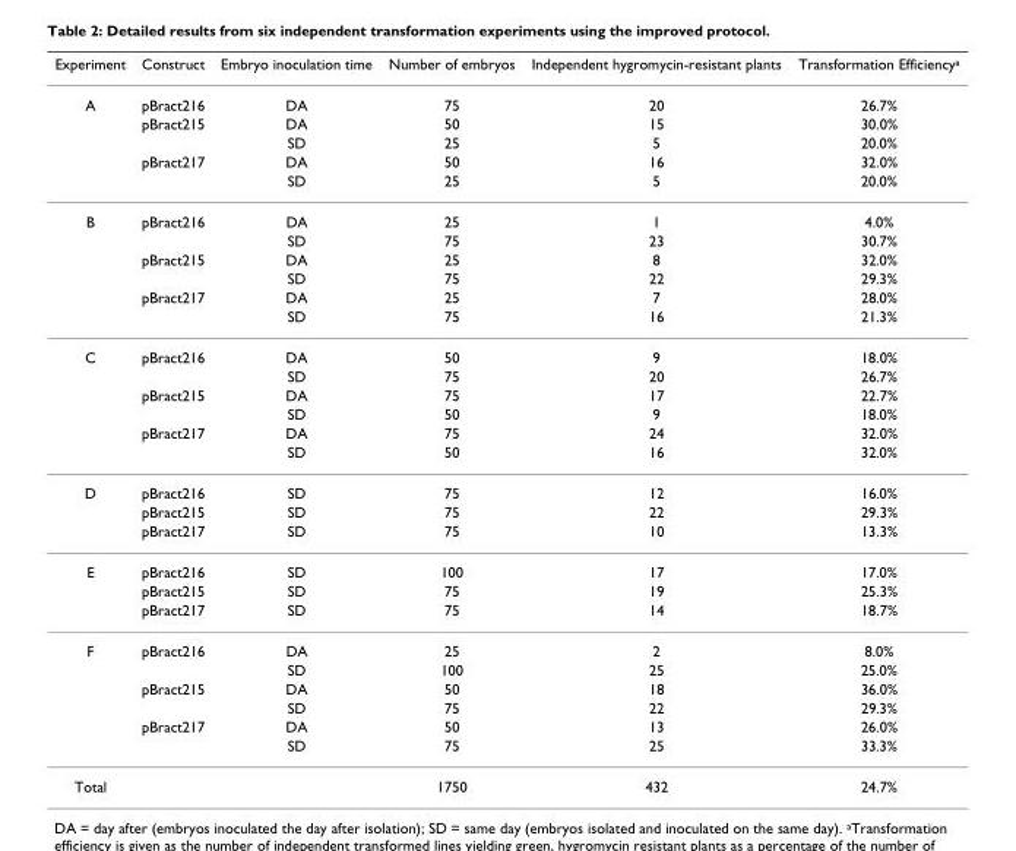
<table><thead><tr><td>Experiment</td><td>Construct</td><td>Embryo inoculation time</td><td>Number of embryos</td><td>Independent hygromycin-resistant plants</td><td>Transformation Efficiency<sup>a</sup></td></tr></thead><tbody><tr><td rowspan="5">A</td><td>pBract216</td><td>DA</td><td>75</td><td>20</td><td>26.7%</td></tr><tr><td>pBract215</td><td>DA</td><td>50</td><td>15</td><td>30.0%</td></tr><tr><td></td><td>SD</td><td>25</td><td>5</td><td>20.0%</td></tr><tr><td>pBract217</td><td>DA</td><td>50</td><td>16</td><td>32.0%</td></tr><tr><td></td><td>SD</td><td>25</td><td>5</td><td>20.0%</td></tr><tr><td rowspan="6">B</td><td>pBract216</td><td>DA</td><td>25</td><td>1</td><td>4.0%</td></tr><tr><td></td><td>SD</td><td>75</td><td>23</td><td>30.7%</td></tr><tr><td>pBract215</td><td>DA</td><td>25</td><td>8</td><td>32.0%</td></tr><tr><td></td><td>SD</td><td>75</td><td>22</td><td>29.3%</td></tr><tr><td>pBract217</td><td>DA</td><td>25</td><td>7</td><td>28.0%</td></tr><tr><td></td><td>SD</td><td>75</td><td>16</td><td>21.3%</td></tr><tr><td rowspan="6">C</td><td>pBract216</td><td>DA</td><td>50</td><td>9</td><td>18.0%</td></tr><tr><td></td><td>SD</td><td>75</td><td>20</td><td>26.7%</td></tr><tr><td>pBract215</td><td>DA</td><td>75</td><td>17</td><td>22.7%</td></tr><tr><td></td><td>SD</td><td>50</td><td>9</td><td>18.0%</td></tr><tr><td>pBract217</td><td>DA</td><td>75</td><td>24</td><td>32.0%</td></tr><tr><td></td><td>SD</td><td>50</td><td>16</td><td>32.0%</td></tr><tr><td rowspan="3">D</td><td>pBract216</td><td>SD</td><td>75</td><td>12</td><td>16.0%</td></tr><tr><td>pBract215</td><td>SD</td><td>75</td><td>22</td><td>29.3%</td></tr><tr><td>pBract217</td><td>SD</td><td>75</td><td>10</td><td>13.3%</td></tr><tr><td rowspan="3">E</td><td>pBract216</td><td>SD</td><td>100</td><td>17</td><td>17.0%</td></tr><tr><td>pBract215</td><td>SD</td><td>75</td><td>19</td><td>25.3%</td></tr><tr><td>pBract217</td><td>SD</td><td>75</td><td>14</td><td>18.7%</td></tr><tr><td rowspan="6">F</td><td>pBract216</td><td>DA</td><td>25</td><td>2</td><td>8.0%</td></tr><tr><td></td><td>SD</td><td>100</td><td>25</td><td>25.0%</td></tr><tr><td>pBract215</td><td>DA</td><td>50</td><td>18</td><td>36.0%</td></tr><tr><td></td><td>SD</td><td>75</td><td>22</td><td>29.3%</td></tr><tr><td>pBract217</td><td>DA</td><td>50</td><td>13</td><td>26.0%</td></tr><tr><td></td><td>SD</td><td>75</td><td>25</td><td>33.3%</td></tr><tr><td>Total</td><td></td><td></td><td>1750</td><td>432</td><td>24.7%</td></tr></tbody></table>